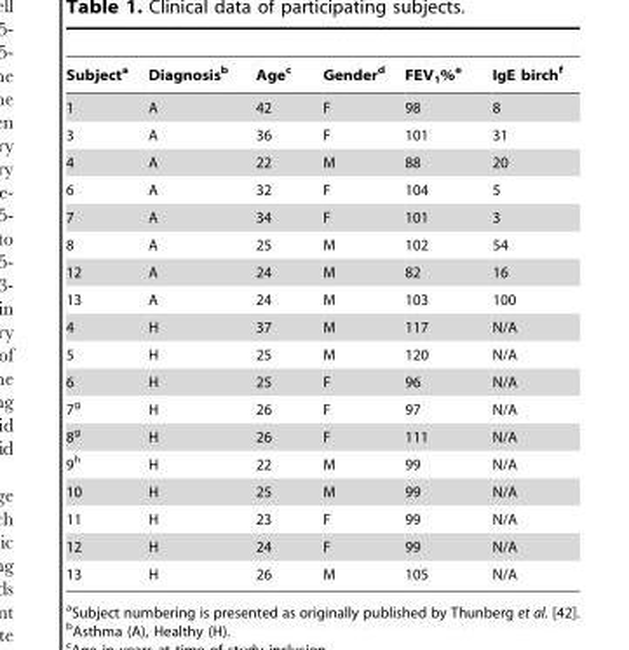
<table><thead><tr><td>Subject<sup>a</sup></td><td>Diagnosis<sup>b</sup></td><td>Age<sup>c</sup></td><td>Gender<sup>d</sup></td><td>FEV<sub>1</sub>%<sup>e</sup></td><td>IgE birch<sup>f</sup></td></tr></thead><tbody><tr><td>1</td><td>A</td><td>42</td><td>F</td><td>98</td><td>8</td></tr><tr><td>3</td><td>A</td><td>36</td><td>F</td><td>101</td><td>31</td></tr><tr><td>4</td><td>A</td><td>22</td><td>M</td><td>88</td><td>20</td></tr><tr><td>6</td><td>A</td><td>32</td><td>F</td><td>104</td><td>5</td></tr><tr><td>7</td><td>A</td><td>34</td><td>F</td><td>101</td><td>3</td></tr><tr><td>8</td><td>A</td><td>25</td><td>M</td><td>102</td><td>54</td></tr><tr><td>12</td><td>A</td><td>24</td><td>M</td><td>82</td><td>16</td></tr><tr><td>13</td><td>A</td><td>24</td><td>M</td><td>103</td><td>100</td></tr><tr><td>4</td><td>H</td><td>37</td><td>M</td><td>117</td><td>N/A</td></tr><tr><td>5</td><td>H</td><td>25</td><td>M</td><td>120</td><td>N/A</td></tr><tr><td>6</td><td>H</td><td>25</td><td>F</td><td>96</td><td>N/A</td></tr><tr><td>7<sup>g</sup></td><td>H</td><td>26</td><td>F</td><td>97</td><td>N/A</td></tr><tr><td>8<sup>g</sup></td><td>H</td><td>26</td><td>F</td><td>111</td><td>N/A</td></tr><tr><td>9<sup>h</sup></td><td>H</td><td>22</td><td>M</td><td>99</td><td>N/A</td></tr><tr><td>10</td><td>H</td><td>25</td><td>M</td><td>99</td><td>N/A</td></tr><tr><td>11</td><td>H</td><td>23</td><td>F</td><td>99</td><td>N/A</td></tr><tr><td>12</td><td>H</td><td>24</td><td>F</td><td>99</td><td>N/A</td></tr><tr><td>13</td><td>H</td><td>26</td><td>M</td><td>105</td><td>N/A</td></tr></tbody></table>